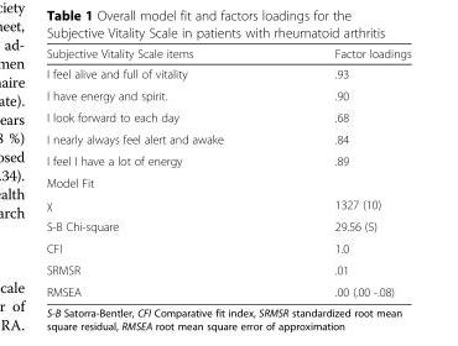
<table><thead><tr><td>Subjective Vitality Scale items</td><td>Factor loadings</td></tr></thead><tbody><tr><td>I feel alive and full of vitality</td><td>.93</td></tr><tr><td>I have energy and spirit.</td><td>.90</td></tr><tr><td>I look forward to each day</td><td>.68</td></tr><tr><td>I nearly always feel alert and awake</td><td>.84</td></tr><tr><td>I feel I have a lot of energy</td><td>.89</td></tr><tr><td colspan="2">Model Fit</td></tr><tr><td>χ</td><td>1327 (10)</td></tr><tr><td>S-B Chi-square</td><td>29.56 (5)</td></tr><tr><td>CFI</td><td>1.0</td></tr><tr><td>SRMSR</td><td>.01</td></tr><tr><td>RMSEA</td><td>.00 (.00 -.08)</td></tr></tbody></table>